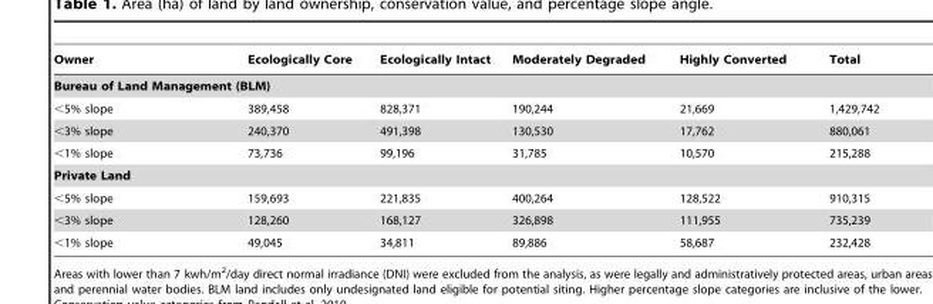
<table><thead><tr><td>Owner</td><td>Ecologically Core</td><td>Ecologically Intact</td><td>Moderately Degraded</td><td>Highly Converted</td><td>Total</td></tr></thead><tbody><tr><td colspan="6">Bureau of Land Management (BLM)</td></tr><tr><td>&lt;5% slope</td><td>389,458</td><td>828,371</td><td>190,244</td><td>21,669</td><td>1,429,742</td></tr><tr><td>&lt;3% slope</td><td>240,370</td><td>491,398</td><td>130,530</td><td>17,762</td><td>880,061</td></tr><tr><td>&lt;1% slope</td><td>73,736</td><td>99,196</td><td>31,785</td><td>10,570</td><td>215,288</td></tr><tr><td colspan="6">Private Land</td></tr><tr><td>&lt;5% slope</td><td>159,693</td><td>221,835</td><td>400,264</td><td>128,522</td><td>910,315</td></tr><tr><td>&lt;3% slope</td><td>128,260</td><td>168,127</td><td>326,898</td><td>111,955</td><td>735,239</td></tr><tr><td>&lt;1% slope</td><td>49,045</td><td>34,811</td><td>89,886</td><td>58,687</td><td>232,428</td></tr></tbody></table>